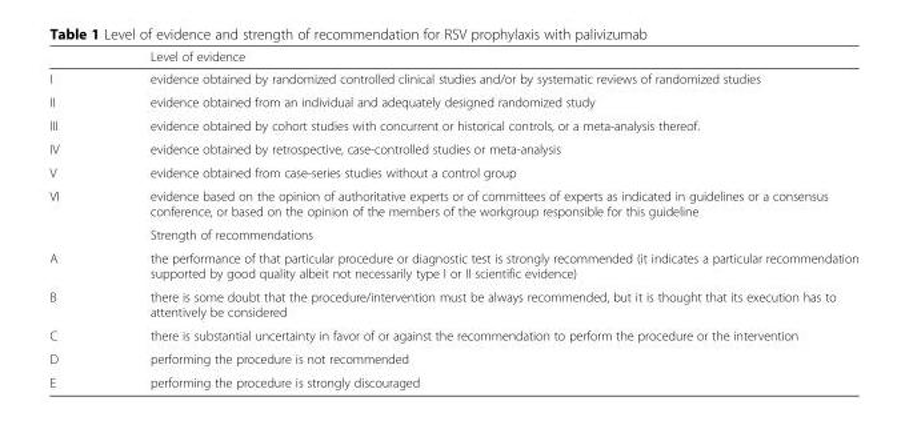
<table><thead><tr><td></td><td>Level of evidence</td></tr></thead><tbody><tr><td>I</td><td>evidence obtained by randomized controlled clinical studies and/or by systematic reviews of randomized studies</td></tr><tr><td>II</td><td>evidence obtained from an individual and adequately designed randomized study</td></tr><tr><td>III</td><td>evidence obtained by cohort studies with concurrent or historical controls, or a meta-analysis thereof.</td></tr><tr><td>IV</td><td>evidence obtained by retrospective, case-controlled studies or meta-analysis</td></tr><tr><td>V</td><td>evidence obtained from case-series studies without a control group</td></tr><tr><td rowspan="2">VI</td><td>evidence based on the opinion of authoritative experts or of committees of experts as indicated in guidelines or a consensus conference, or based on the opinion of the members of the workgroup responsible for this guideline</td></tr><tr><td>Strength of recommendations</td></tr><tr><td>A</td><td>the performance of that particular procedure or diagnostic test is strongly recommended (it indicates a particular recommendation supported by good quality albeit not necessarily type I or II scientific evidence)</td></tr><tr><td>B</td><td>there is some doubt that the procedure/intervention must be always recommended, but it is thought that its execution has to attentively be considered</td></tr><tr><td>C</td><td>there is substantial uncertainty in favor of or against the recommendation to perform the procedure or the intervention</td></tr><tr><td>D</td><td>performing the procedure is not recommended</td></tr><tr><td>E</td><td>performing the procedure is strongly discouraged</td></tr></tbody></table>